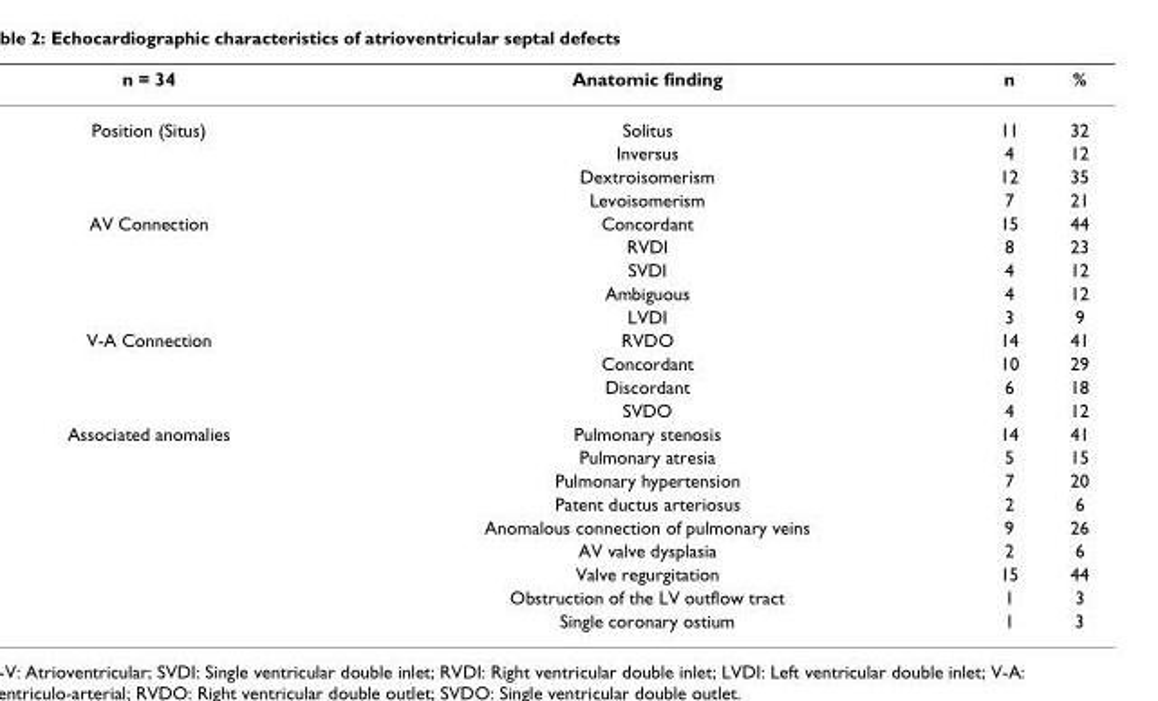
<table><thead><tr><td>n = 34</td><td>Anatomic finding</td><td>n</td><td>%</td></tr></thead><tbody><tr><td rowspan="4">Position (Situs)</td><td>Solitus</td><td>11</td><td>32</td></tr><tr><td>Inversus</td><td>4</td><td>12</td></tr><tr><td>Dextroisomerism</td><td>12</td><td>35</td></tr><tr><td>Levoisomerism</td><td>7</td><td>21</td></tr><tr><td rowspan="5">AV Connection</td><td>Concordant</td><td>15</td><td>44</td></tr><tr><td>RVDI</td><td>8</td><td>23</td></tr><tr><td>SVDI</td><td>4</td><td>12</td></tr><tr><td>Ambiguous</td><td>4</td><td>12</td></tr><tr><td>LVDI</td><td>3</td><td>9</td></tr><tr><td rowspan="4">V-A Connection</td><td>RVDO</td><td>14</td><td>41</td></tr><tr><td>Concordant</td><td>10</td><td>29</td></tr><tr><td>Discordant</td><td>6</td><td>18</td></tr><tr><td>SVDO</td><td>4</td><td>12</td></tr><tr><td rowspan="9">Associated anomalies</td><td>Pulmonary stenosis</td><td>14</td><td>41</td></tr><tr><td>Pulmonary atresia</td><td>5</td><td>15</td></tr><tr><td>Pulmonary hypertension</td><td>7</td><td>20</td></tr><tr><td>Patent ductus arteriosus</td><td>2</td><td>6</td></tr><tr><td>Anomalous connection of pulmonary veins</td><td>9</td><td>26</td></tr><tr><td>AV valve dysplasia</td><td>2</td><td>6</td></tr><tr><td>Valve regurgitation</td><td>15</td><td>44</td></tr><tr><td>Obstruction of the LV outflow tract</td><td>1</td><td>3</td></tr><tr><td>Single coronary ostium</td><td>1</td><td>3</td></tr></tbody></table>